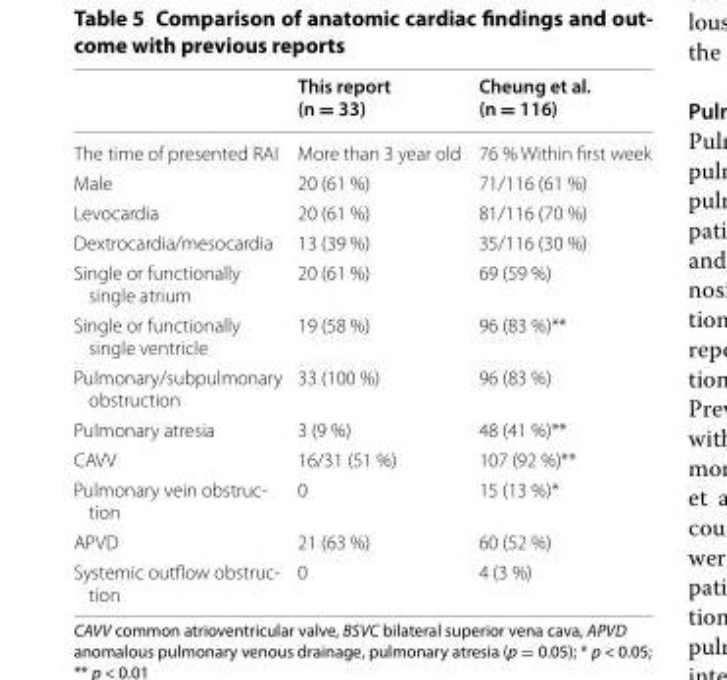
<table><thead><tr><td></td><td>This report (n = 33)</td><td>Cheung et al. (n = 116)</td></tr></thead><tbody><tr><td>The time of presented RAI</td><td>More than 3 year old</td><td>76 % Within first week</td></tr><tr><td>Male</td><td>20 (61 %)</td><td>71/116 (61 %)</td></tr><tr><td>Levocardia</td><td>20 (61 %)</td><td>81/116 (70 %)</td></tr><tr><td>Dextrocardia/mesocardia</td><td>13 (39 %)</td><td>35/116 (30 %)</td></tr><tr><td>Single or functionally single atrium</td><td>20 (61 %)</td><td>69 (59 %)</td></tr><tr><td>Single or functionally single ventricle</td><td>19 (58 %)</td><td>96 (83 %)**</td></tr><tr><td>Pulmonary/subpulmonary obstruction</td><td>33 (100 %)</td><td>96 (83 %)</td></tr><tr><td>Pulmonary atresia</td><td>3 (9 %)</td><td>48 (41 %)**</td></tr><tr><td>CAVV</td><td>16/31 (51 %)</td><td>107 (92 %)**</td></tr><tr><td>Pulmonary vein obstruc- tion</td><td>0</td><td>15 (13 %)*</td></tr><tr><td>APVD</td><td>21 (63 %)</td><td>60 (52 %)</td></tr><tr><td>Systemic outflow obstruc- tion</td><td>0</td><td>4 (3 %)</td></tr></tbody></table>